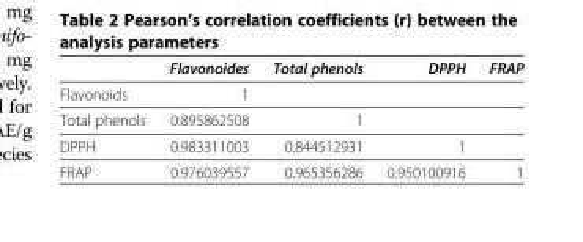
<table><thead><tr><td></td><td>Flavonoides</td><td>Total phenols</td><td>DPPH</td><td>FRAP</td></tr></thead><tbody><tr><td>Flavonoids</td><td>1</td><td></td><td></td><td></td></tr><tr><td>Total phenols</td><td>0.895862508</td><td>1</td><td></td><td></td></tr><tr><td>DPPH</td><td>0.983311003</td><td>0.844512931</td><td>1</td><td></td></tr><tr><td>FRAP</td><td>0.976039557</td><td>0.965356286</td><td>0.950100916</td><td>1</td></tr></tbody></table>